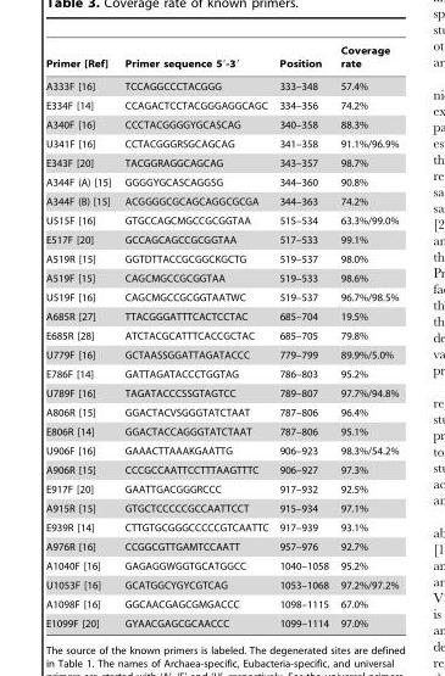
<table><thead><tr><td>Primer [Ref]</td><td>Primer sequence 5′-3′</td><td>Position</td><td>Coverage rate</td></tr></thead><tbody><tr><td>A333F [16]</td><td>TCCAGGCCCTACGGG</td><td>333–348</td><td>57.4%</td></tr><tr><td>E334F [14]</td><td>CCAGACTCCTACGGGAGGCAGC</td><td>334–356</td><td>74.2%</td></tr><tr><td>A340F [16]</td><td>CCCTACGGGGYGCASCAG</td><td>340–358</td><td>88.3%</td></tr><tr><td>U341F [16]</td><td>CCTACGGGRSGCAGCAG</td><td>341–358</td><td>91.1%/96.9%</td></tr><tr><td>E343F [20]</td><td>TACGGRAGGCAGCAG</td><td>343–357</td><td>98.7%</td></tr><tr><td>A344F (A) [15]</td><td>GGGGYGCASCAGGSG</td><td>344–360</td><td>90.8%</td></tr><tr><td>A344F (B) [15]</td><td>ACGGGGCGCAGCAGGCGCGA</td><td>344–363</td><td>74.2%</td></tr><tr><td>U515F [16]</td><td>GTGCCAGCMGCCGCGGTAA</td><td>515–534</td><td>63.3%/99.0%</td></tr><tr><td>E517F [20]</td><td>GCCAGCAGCCGCGGTAA</td><td>517–533</td><td>99.1%</td></tr><tr><td>A519R [15]</td><td>GGTDTTACCGCGGCKGCTG</td><td>519–537</td><td>98.0%</td></tr><tr><td>A519F [15]</td><td>CAGCMGCCGCGGTAA</td><td>519–533</td><td>98.6%</td></tr><tr><td>U519F [16]</td><td>CAGCMGCCGCGGTAATWC</td><td>519–537</td><td>96.7%/98.5%</td></tr><tr><td>A685R [27]</td><td>TTACGGGATTTCACTCCTAC</td><td>685–704</td><td>19.5%</td></tr><tr><td>E685R [28]</td><td>ATCTACGCATTTCACCGCTAC</td><td>685–705</td><td>79.8%</td></tr><tr><td>U779F [16]</td><td>GCTAASSGGATTAGATACCC</td><td>779–799</td><td>89.9%/5.0%</td></tr><tr><td>E786F [14]</td><td>GATTAGATACCCTGGTAG</td><td>786–803</td><td>95.2%</td></tr><tr><td>U789F [16]</td><td>TAGATACCCSSGTAGTCC</td><td>789–807</td><td>97.7%/94.8%</td></tr><tr><td>A806R [15]</td><td>GGACTACVSGGGTATCTAAT</td><td>787–806</td><td>96.4%</td></tr><tr><td>E806R [14]</td><td>GGACTACCAGGGTATCTAAT</td><td>787–806</td><td>95.1%</td></tr><tr><td>U906F [16]</td><td>GAAACTTAAAKGAATTG</td><td>906–923</td><td>98.3%/54.2%</td></tr><tr><td>A906R [15]</td><td>CCCGCCAATTCCTTTAAGTTTC</td><td>906–927</td><td>97.3%</td></tr><tr><td>E917F [20]</td><td>GAATTGACGGGRCCC</td><td>917–932</td><td>92.5%</td></tr><tr><td>A915R [15]</td><td>GTGCTCCCCCGCCAATTCCT</td><td>915–934</td><td>97.1%</td></tr><tr><td>E939R [14]</td><td>CTTGTGCGGGCCCCCGTCAATTC</td><td>917–939</td><td>93.1%</td></tr><tr><td>A976R [16]</td><td>CCGGCGTTGAMTCCAATT</td><td>957–976</td><td>92.7%</td></tr><tr><td>A1040F [16]</td><td>GAGAGGWGGTGCATGGCC</td><td>1040–1058</td><td>95.2%</td></tr><tr><td>U1053F [16]</td><td>GCATGGCYGYCGTCAG</td><td>1053–1068</td><td>97.2%/97.2%</td></tr><tr><td>A1098F [16]</td><td>GGCAACGAGCGMGACCC</td><td>1098–1115</td><td>67.0%</td></tr><tr><td>E1099F [20]</td><td>GYAACGAGCGCAACCC</td><td>1099–1114</td><td>97.0%</td></tr></tbody></table>